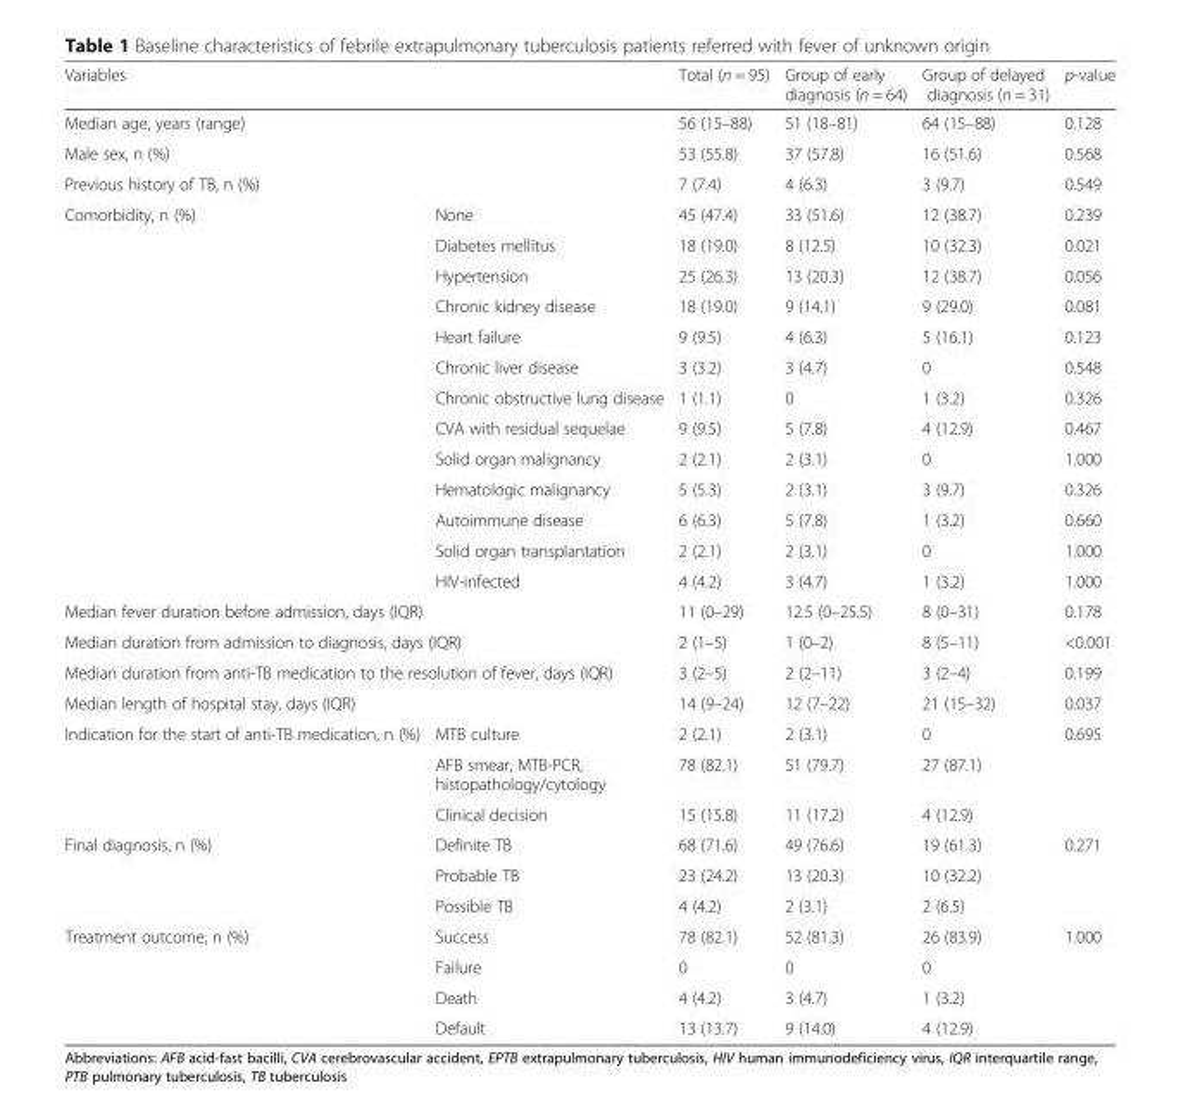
<table><thead><tr><td>Variables</td><td></td><td>Total (n = 95)</td><td>Group of early diagnosis (n = 64)</td><td>Group of delayed diagnosis (n = 31)</td><td>p-value</td></tr></thead><tbody><tr><td colspan="2">Median age, years (range)</td><td>56 (15–88)</td><td>51 (18–81)</td><td>64 (15–88)</td><td>0.128</td></tr><tr><td colspan="2">Male sex, n (%)</td><td>53 (55.8)</td><td>37 (57.8)</td><td>16 (51.6)</td><td>0.568</td></tr><tr><td colspan="2">Previous history of TB, n (%)</td><td>7 (7.4)</td><td>4 (6.3)</td><td>3 (9.7)</td><td>0.549</td></tr><tr><td rowspan="13">Comorbidity, n (%)</td><td>None</td><td>45 (47.4)</td><td>33 (51.6)</td><td>12 (38.7)</td><td>0.239</td></tr><tr><td>Diabetes mellitus</td><td>18 (19.0)</td><td>8 (12.5)</td><td>10 (32.3)</td><td>0.021</td></tr><tr><td>Hypertension</td><td>25 (26.3)</td><td>13 (20.3)</td><td>12 (38.7)</td><td>0.056</td></tr><tr><td>Chronic kidney disease</td><td>18 (19.0)</td><td>9 (14.1)</td><td>9 (29.0)</td><td>0.081</td></tr><tr><td>Heart failure</td><td>9 (9.5)</td><td>4 (6.3)</td><td>5 (16.1)</td><td>0.123</td></tr><tr><td>Chronic liver disease</td><td>3 (3.2)</td><td>3 (4.7)</td><td>0</td><td>0.548</td></tr><tr><td>Chronic obstructive lung disease</td><td>1 (1.1)</td><td>0</td><td>1 (3.2)</td><td>0.326</td></tr><tr><td>CVA with residual sequelae</td><td>9 (9.5)</td><td>5 (7.8)</td><td>4 (12.9)</td><td>0.467</td></tr><tr><td>Solid organ malignancy</td><td>2 (2.1)</td><td>2 (3.1)</td><td>0</td><td>1.000</td></tr><tr><td>Hematologic malignancy</td><td>5 (5.3)</td><td>2 (3.1)</td><td>3 (9.7)</td><td>0.326</td></tr><tr><td>Autoimmune disease</td><td>6 (6.3)</td><td>5 (7.8)</td><td>1 (3.2)</td><td>0.660</td></tr><tr><td>Solid organ transplantation</td><td>2 (2.1)</td><td>2 (3.1)</td><td>0</td><td>1.000</td></tr><tr><td>HIV-infected</td><td>4 (4.2)</td><td>3 (4.7)</td><td>1 (3.2)</td><td>1.000</td></tr><tr><td colspan="2">Median fever duration before admission, days (IQR)</td><td>11 (0–29)</td><td>12.5 (0–25.5)</td><td>8 (0–31)</td><td>0.178</td></tr><tr><td colspan="2">Median duration from admission to diagnosis, days (IQR)</td><td>2 (1–5)</td><td>1 (0–2)</td><td>8 (5–11)</td><td>&lt;0.001</td></tr><tr><td colspan="2">Median duration from anti-TB medication to the resolution of fever, days (IQR)</td><td>3 (2–5)</td><td>2 (2–11)</td><td>3 (2–4)</td><td>0.199</td></tr><tr><td colspan="2">Median length of hospital stay, days (IQR)</td><td>14 (9–24)</td><td>12 (7–22)</td><td>21 (15–32)</td><td>0.037</td></tr><tr><td rowspan="3">Indication for the start of anti-TB medication, n (%)</td><td>MTB culture</td><td>2 (2.1)</td><td>2 (3.1)</td><td>0</td><td>0.695</td></tr><tr><td>AFB smear, MTB-PCR, histopathology/cytology</td><td>78 (82.1)</td><td>51 (79.7)</td><td>27 (87.1)</td><td></td></tr><tr><td>Clinical decision</td><td>15 (15.8)</td><td>11 (17.2)</td><td>4 (12.9)</td><td></td></tr><tr><td rowspan="3">Final diagnosis, n (%)</td><td>Definite TB</td><td>68 (71.6)</td><td>49 (76.6)</td><td>19 (61.3)</td><td>0.271</td></tr><tr><td>Probable TB</td><td>23 (24.2)</td><td>13 (20.3)</td><td>10 (32.2)</td><td></td></tr><tr><td>Possible TB</td><td>4 (4.2)</td><td>2 (3.1)</td><td>2 (6.5)</td><td></td></tr><tr><td rowspan="4">Treatment outcome, n (%)</td><td>Success</td><td>78 (82.1)</td><td>52 (81.3)</td><td>26 (83.9)</td><td>1.000</td></tr><tr><td>Failure</td><td>0</td><td>0</td><td>0</td><td></td></tr><tr><td>Death</td><td>4 (4.2)</td><td>3 (4.7)</td><td>1 (3.2)</td><td></td></tr><tr><td>Default</td><td>13 (13.7)</td><td>9 (14.0)</td><td>4 (12.9)</td><td></td></tr></tbody></table>